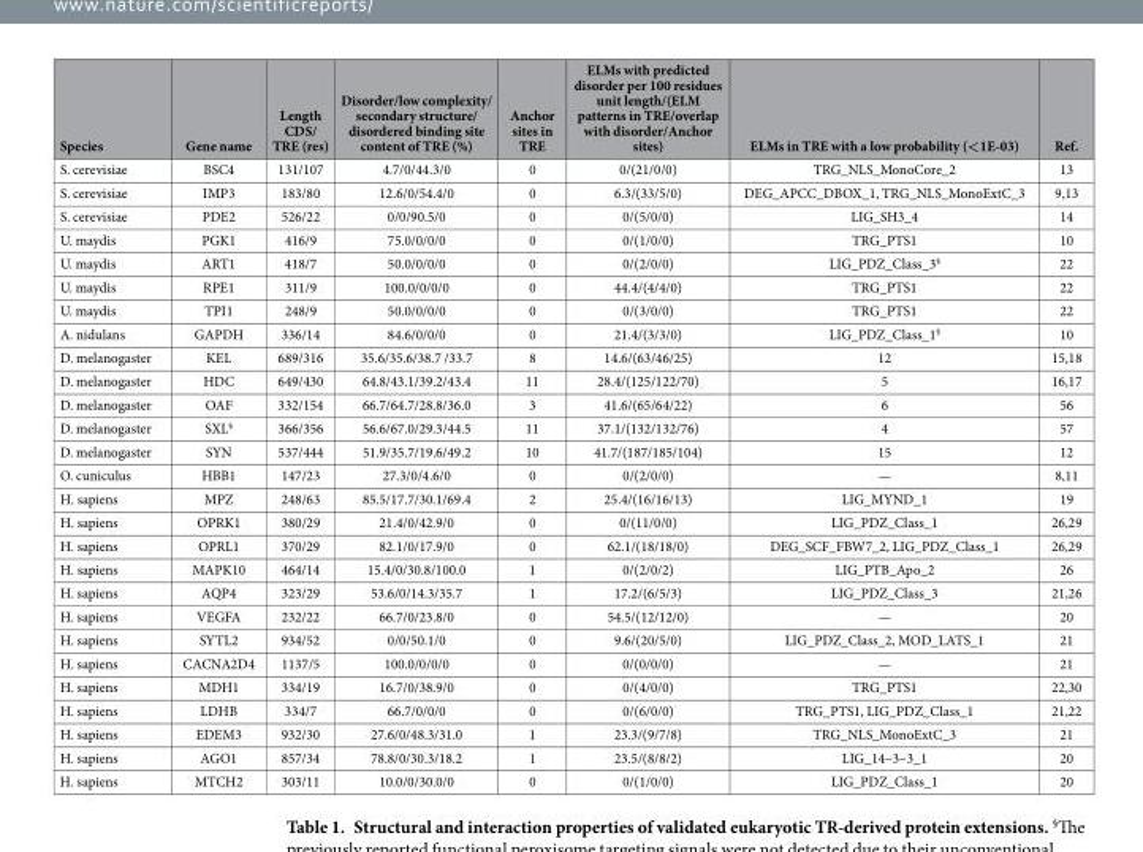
<table><thead><tr><td>Species</td><td>Gene name</td><td>Length CDS/ TRE (res)</td><td>Disorder/low complexity/ secondary structure/ disordered binding site content of TRE (%)</td><td>Anchor sites in TRE</td><td>ELMs with predicted disorder per 100 residues unit length/(ELM patterns in TRE/overlap with disorder/Anchor sites)</td><td>ELMs in TRE with a low probability (&lt;1E-03)</td><td>Ref.</td></tr></thead><tbody><tr><td>S. cerevisiae</td><td>BSC4</td><td>131/107</td><td>4.7/0/44.3/0</td><td>0</td><td>0/(21/0/0)</td><td>TRG_NLS_MonoCore_2</td><td>13</td></tr><tr><td>S. cerevisiae</td><td>IMP3</td><td>183/80</td><td>12.6/0/54.4/0</td><td>0</td><td>6.3/(33/5/0)</td><td>DEG_APCC_DBOX_1, TRG_NLS_MonoExtC_3</td><td>9,13</td></tr><tr><td>S. cerevisiae</td><td>PDE2</td><td>526/22</td><td>0/0/90.5/0</td><td>0</td><td>0/(5/0/0)</td><td>LIG_SH3_4</td><td>14</td></tr><tr><td>U. maydis</td><td>PGK1</td><td>416/9</td><td>75.0/0/0/0</td><td>0</td><td>0/(1/0/0)</td><td>TRG_PTS1</td><td>10</td></tr><tr><td>U. maydis</td><td>ART1</td><td>418/7</td><td>50.0/0/0/0</td><td>0</td><td>0/(2/0/0)</td><td>LIG_PDZ_Class_3§</td><td>22</td></tr><tr><td>U. maydis</td><td>RPE1</td><td>311/9</td><td>100.0/0/0/0</td><td>0</td><td>44.4/(4/4/0)</td><td>TRG_PTS1</td><td>22</td></tr><tr><td>U. maydis</td><td>TPI1</td><td>248/9</td><td>50.0/0/0/0</td><td>0</td><td>0/(3/0/0)</td><td>TRG_PTS1</td><td>22</td></tr><tr><td>A. nidulans</td><td>GAPDH</td><td>336/14</td><td>84.6/0/0/0</td><td>0</td><td>21.4/(3/3/0)</td><td>LIG_PDZ_Class_1§</td><td>10</td></tr><tr><td>D. melanogaster</td><td>KEL</td><td>689/316</td><td>35.6/35.6/38.7 /33.7</td><td>8</td><td>14.6/(63/46/25)</td><td>12</td><td>15,18</td></tr><tr><td>D. melanogaster</td><td>HDC</td><td>649/430</td><td>64.8/43.1/39.2/43.4</td><td>11</td><td>28.4/(125/122/70)</td><td>5</td><td>16,17</td></tr><tr><td>D. melanogaster</td><td>OAF</td><td>332/154</td><td>66.7/64.7/28.8/36.0</td><td>3</td><td>41.6/(65/64/22)</td><td>6</td><td>56</td></tr><tr><td>D. melanogaster</td><td>SXL§</td><td>366/356</td><td>56.6/67.0/29.3/44.5</td><td>11</td><td>37.1/(132/132/76)</td><td>4</td><td>57</td></tr><tr><td>D. melanogaster</td><td>SYN</td><td>537/444</td><td>51.9/35.7/19.6/49.2</td><td>10</td><td>41.7/(187/185/104)</td><td>15</td><td>12</td></tr><tr><td>O. cuniculus</td><td>HBB1</td><td>147/23</td><td>27.3/0/4.6/0</td><td>0</td><td>0/(2/0/0)</td><td>—</td><td>8,11</td></tr><tr><td>H. sapiens</td><td>MPZ</td><td>248/63</td><td>85.5/17.7/30.1/69.4</td><td>2</td><td>25.4/(16/16/13)</td><td>LIG_MYND_1</td><td>19</td></tr><tr><td>H. sapiens</td><td>OPRK1</td><td>380/29</td><td>21.4/0/42.9/0</td><td>0</td><td>0/(11/0/0)</td><td>LIG_PDZ_Class_1</td><td>26,29</td></tr><tr><td>H. sapiens</td><td>OPRL1</td><td>370/29</td><td>82.1/0/17.9/0</td><td>0</td><td>62.1/(18/18/0)</td><td>DEG_SCF_FBW7_2, LIG_PDZ_Class_1</td><td>26,29</td></tr><tr><td>H. sapiens</td><td>MAPK10</td><td>464/14</td><td>15.4/0/30.8/100.0</td><td>1</td><td>0/(2/0/2)</td><td>LIG_PTB_Apo_2</td><td>26</td></tr><tr><td>H. sapiens</td><td>AQP4</td><td>323/29</td><td>53.6/0/14.3/35.7</td><td>1</td><td>17.2/(6/5/3)</td><td>LIG_PDZ_Class_3</td><td>21,26</td></tr><tr><td>H. sapiens</td><td>VEGFA</td><td>232/22</td><td>66.7/0/23.8/0</td><td>0</td><td>54.5/(12/12/0)</td><td>—</td><td>20</td></tr><tr><td>H. sapiens</td><td>SYTL2</td><td>934/52</td><td>0/0/50.1/0</td><td>0</td><td>9.6/(20/5/0)</td><td>LIG_PDZ_Class_2, MOD_LATS_1</td><td>21</td></tr><tr><td>H. sapiens</td><td>CACNA2D4</td><td>1137/5</td><td>100.0/0/0/0</td><td>0</td><td>0/(0/0/0)</td><td>—</td><td>21</td></tr><tr><td>H. sapiens</td><td>MDH1</td><td>334/19</td><td>16.7/0/38.9/0</td><td>0</td><td>0/(4/0/0)</td><td>TRG_PTS1</td><td>22,30</td></tr><tr><td>H. sapiens</td><td>LDHB</td><td>334/7</td><td>66.7/0/0/0</td><td>0</td><td>0/(6/0/0)</td><td>TRG_PTS1, LIG_PDZ_Class_1</td><td>21,22</td></tr><tr><td>H. sapiens</td><td>EDEM3</td><td>932/30</td><td>27.6/0/48.3/31.0</td><td>1</td><td>23.3/(9/7/8)</td><td>TRG_NLS_MonoExtC_3</td><td>21</td></tr><tr><td>H. sapiens</td><td>AGO1</td><td>857/34</td><td>78.8/0/30.3/18.2</td><td>1</td><td>23.5/(8/8/2)</td><td>LIG_14–3–3_1</td><td>20</td></tr><tr><td>H. sapiens</td><td>MTCH2</td><td>303/11</td><td>10.0/0/30.0/0</td><td>0</td><td>0/(1/0/0)</td><td>LIG_PDZ_Class_1</td><td>20</td></tr></tbody></table>